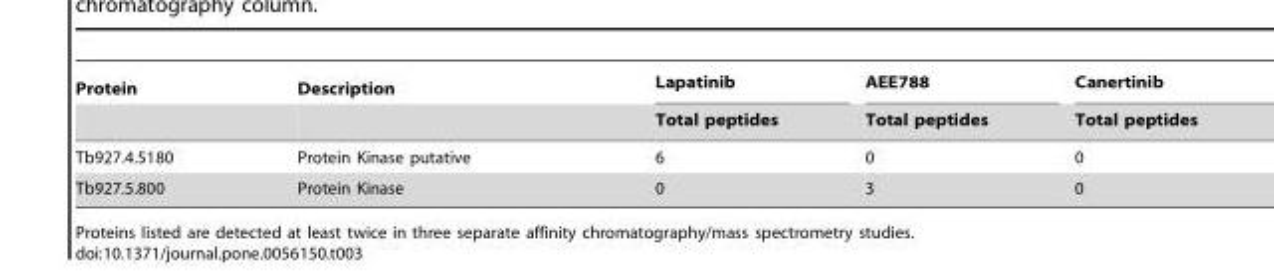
<table><thead><tr><td rowspan="2">Protein</td><td rowspan="2">Description</td><td rowspan="2">Lapatinib Total peptides</td><td rowspan="2">AEE788 Total peptides</td><td rowspan="2">Canertinib Total peptides</td></tr><tr></tr></thead><tbody><tr><td>Tb927.4.5180</td><td>Protein Kinase putative</td><td>6</td><td>0</td><td>0</td></tr><tr><td>Tb927.5.800</td><td>Protein Kinase</td><td>0</td><td>3</td><td>0</td></tr></tbody></table>